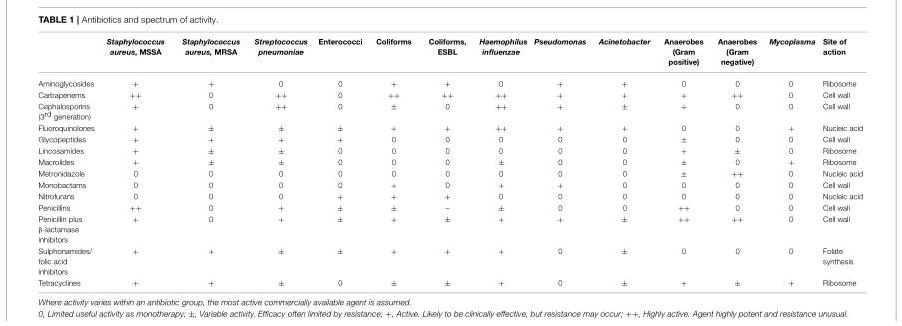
<table><thead><tr><td></td><td>Staphylococcus aureus, MSSA</td><td>Staphylococcus aureus, MRSA</td><td>Streptococcus pneumoniae</td><td>Enterococci</td><td>Coliforms</td><td>Coliforms, ESBL</td><td>Haemophilus influenzae</td><td>Pseudomonas</td><td>Acinetobacter</td><td>Anaerobes (Gram positive)</td><td>Anaerobes (Gram negative)</td><td>Mycoplasma</td><td>Site of action</td></tr></thead><tbody><tr><td>Aminoglycosides</td><td>+</td><td>+</td><td>0</td><td>0</td><td>+</td><td>+</td><td>0</td><td>+</td><td>+</td><td>0</td><td>0</td><td>0</td><td>Ribosome</td></tr><tr><td>Carbapenems</td><td>++</td><td>0</td><td>++</td><td>0</td><td>++</td><td>++</td><td>++</td><td>+</td><td>+</td><td>+</td><td>++</td><td>0</td><td>Cell wall</td></tr><tr><td>Cephalosporins (3<sup>rd</sup> generation)</td><td>+</td><td>0</td><td>++</td><td>0</td><td>±</td><td>0</td><td>++</td><td>+</td><td>±</td><td>+</td><td>0</td><td>0</td><td>Cell wall</td></tr><tr><td>Fluoroquinolones</td><td>+</td><td>±</td><td>±</td><td>±</td><td>+</td><td>+</td><td>++</td><td>+</td><td>+</td><td>0</td><td>0</td><td>+</td><td>Nucleic acid</td></tr><tr><td>Glycopeptides</td><td>+</td><td>+</td><td>+</td><td>+</td><td>0</td><td>0</td><td>0</td><td>0</td><td>0</td><td>±</td><td>0</td><td>0</td><td>Cell wall</td></tr><tr><td>Lincosamides</td><td>+</td><td>±</td><td>±</td><td>0</td><td>0</td><td>0</td><td>0</td><td>0</td><td>0</td><td>+</td><td>±</td><td>0</td><td>Ribosome</td></tr><tr><td>Macrolides</td><td>+</td><td>±</td><td>±</td><td>0</td><td>0</td><td>0</td><td>±</td><td>0</td><td>0</td><td>±</td><td>0</td><td>+</td><td>Ribosome</td></tr><tr><td>Metronidazole</td><td>0</td><td>0</td><td>0</td><td>0</td><td>0</td><td>0</td><td>0</td><td>0</td><td>0</td><td>±</td><td>++</td><td>0</td><td>Nucleic acid</td></tr><tr><td>Monobactams</td><td>0</td><td>0</td><td>0</td><td>0</td><td>+</td><td>0</td><td>+</td><td>+</td><td>0</td><td>0</td><td>0</td><td>0</td><td>Cell wall</td></tr><tr><td>Nitrofurans</td><td>0</td><td>0</td><td>0</td><td>+</td><td>+</td><td>+</td><td>0</td><td>0</td><td>0</td><td>0</td><td>0</td><td>0</td><td>Nucleic acid</td></tr><tr><td>Penicillins</td><td>++</td><td>0</td><td>+</td><td>±</td><td>±</td><td>–</td><td>±</td><td>0</td><td>0</td><td>++</td><td>0</td><td>0</td><td>Cell wall</td></tr><tr><td>Penicillin plus β-lactamase inhibitors</td><td>+</td><td>0</td><td>+</td><td>±</td><td>+</td><td>±</td><td>+</td><td>+</td><td>±</td><td>++</td><td>++</td><td>0</td><td>Cell wall</td></tr><tr><td>Sulphonamides/ folic acid inhibitors</td><td>+</td><td>+</td><td>±</td><td>±</td><td>+</td><td>+</td><td>+</td><td>0</td><td>±</td><td>0</td><td>0</td><td>0</td><td>Folate synthesis</td></tr><tr><td>Tetracyclines</td><td>+</td><td>+</td><td>±</td><td>0</td><td>±</td><td>±</td><td>+</td><td>0</td><td>±</td><td>+</td><td>±</td><td>+</td><td>Ribosome</td></tr></tbody></table>